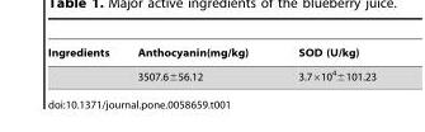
<table><thead><tr><td>Ingredients</td><td>Anthocyanin(mg/kg)</td><td>SOD (U/kg)</td></tr></thead><tbody><tr><td></td><td>3507.6±56.12</td><td>3.7×10<sup>4</sup>±101.23</td></tr></tbody></table>